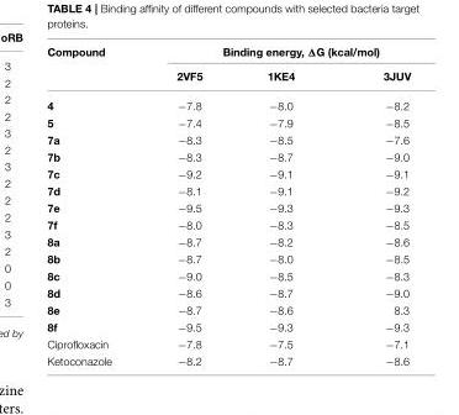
<table><thead><tr><td rowspan="2">Compound</td><td colspan="3">Binding energy, ΔG (kcal/mol)</td></tr><tr><td>2VF5</td><td>1KE4</td><td>3JUV</td></tr></thead><tbody><tr><td>4</td><td>−7.8</td><td>−8.0</td><td>−8.2</td></tr><tr><td>5</td><td>−7.4</td><td>−7.9</td><td>−8.5</td></tr><tr><td>7a</td><td>−8.3</td><td>−8.5</td><td>−7.6</td></tr><tr><td>7b</td><td>−8.3</td><td>−8.7</td><td>−9.0</td></tr><tr><td>7c</td><td>−9.2</td><td>−9.1</td><td>−9.1</td></tr><tr><td>7d</td><td>−8.1</td><td>−9.1</td><td>−9.2</td></tr><tr><td>7e</td><td>−9.5</td><td>−9.3</td><td>−9.3</td></tr><tr><td>7f</td><td>−8.0</td><td>−8.3</td><td>−8.5</td></tr><tr><td>8a</td><td>−8.7</td><td>−8.2</td><td>−8.6</td></tr><tr><td>8b</td><td>−8.7</td><td>−8.0</td><td>−8.5</td></tr><tr><td>8c</td><td>−9.0</td><td>−8.5</td><td>−8.3</td></tr><tr><td>8d</td><td>−8.6</td><td>−8.7</td><td>−9.0</td></tr><tr><td>8e</td><td>−8.7</td><td>−8.6</td><td>8.3</td></tr><tr><td>8f</td><td>−9.5</td><td>−9.3</td><td>−9.3</td></tr><tr><td>Ciprofloxacin</td><td>−7.8</td><td>−7.5</td><td>−7.1</td></tr><tr><td>Ketoconazole</td><td>−8.2</td><td>−8.7</td><td>−8.6</td></tr></tbody></table>